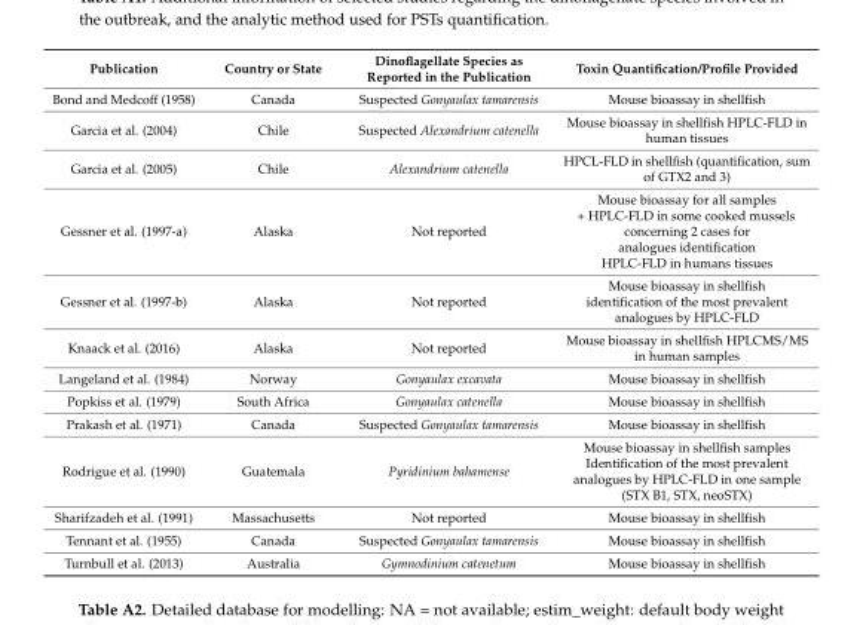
<table><thead><tr><td>Publication</td><td>Country or State</td><td>Dinoflagellate Species as Reported in the Publication</td><td>Toxin Quantification/Profile Provided</td></tr></thead><tbody><tr><td>Bond and Medcoff (1958)</td><td>Canada</td><td>Suspected Gonyaulax tamarensis</td><td>Mouse bioassay in shellfish</td></tr><tr><td>Garcia et al. (2004)</td><td>Chile</td><td>Suspected Alexandrium catenella</td><td>Mouse bioassay in shellfish HPLC-FLD in human tissues</td></tr><tr><td>Garcia et al. (2005)</td><td>Chile</td><td>Alexandrium catenella</td><td>HPCL-FLD in shellfish (quantification, sum of GTX2 and 3)</td></tr><tr><td>Gessner et al. (1997-a)</td><td>Alaska</td><td>Not reported</td><td>Mouse bioassay for all samples + HPLC-FLD in some cooked mussels concerning 2 cases for analogues identification HPLC-FLD in humans tissues</td></tr><tr><td>Gessner et al. (1997-b)</td><td>Alaska</td><td>Not reported</td><td>Mouse bioassay in shellfish identification of the most prevalent analogues by HPLC-FLD</td></tr><tr><td>Knaack et al. (2016)</td><td>Alaska</td><td>Not reported</td><td>Mouse bioassay in shellfish HPLCMS/MS in human samples</td></tr><tr><td>Langeland et al. (1984)</td><td>Norway</td><td>Gonyaulax excavata</td><td>Mouse bioassay in shellfish</td></tr><tr><td>Popkiss et al. (1979)</td><td>South Africa</td><td>Gonyaulax catenella</td><td>Mouse bioassay in shellfish</td></tr><tr><td>Prakash et al. (1971)</td><td>Canada</td><td>Suspected Gonyaulax tamarensis</td><td>Mouse bioassay in shellfish</td></tr><tr><td>Rodrigue et al. (1990)</td><td>Guatemala</td><td>Pyridinium bahamense</td><td>Mouse bioassay in shellfish samples Identification of the most prevalent analogues by HPLC-FLD in one sample (STX B1, STX, neoSTX)</td></tr><tr><td>Sharifzadeh et al. (1991)</td><td>Massachusetts</td><td>Not reported</td><td>Mouse bioassay in shellfish</td></tr><tr><td>Tennant et al. (1955)</td><td>Canada</td><td>Suspected Gonyaulax tamarensis</td><td>Mouse bioassay in shellfish</td></tr><tr><td>Turnbull et al. (2013)</td><td>Australia</td><td>Gymnodinium catenetum</td><td>Mouse bioassay in shellfish</td></tr></tbody></table>